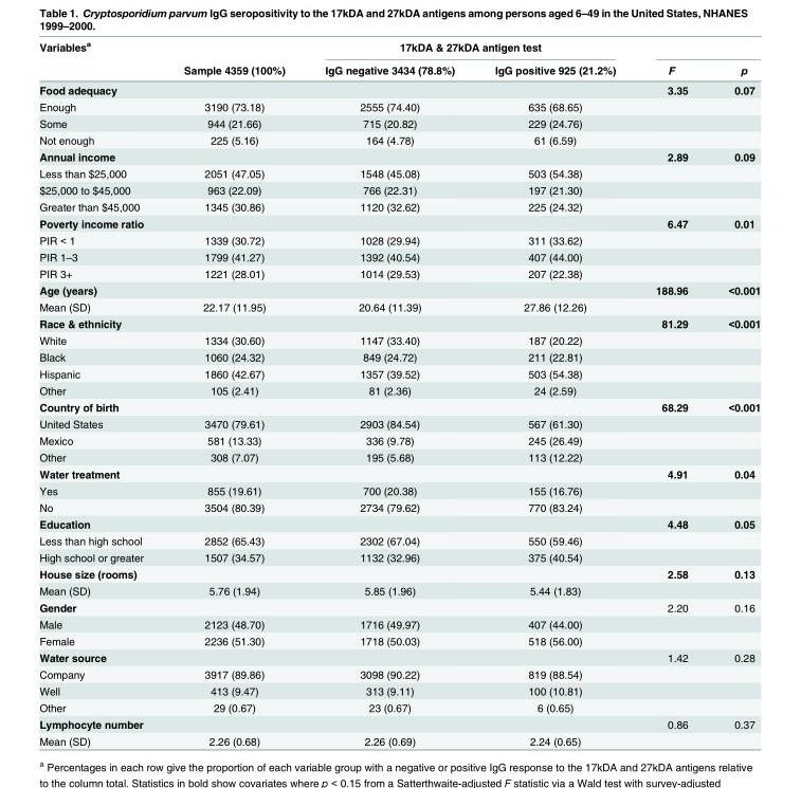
<table><thead><tr><td rowspan="2">Variables<sup>a</sup></td><td rowspan="2">Sample 4359 (100%)</td><td colspan="2">17kDA &amp; 27kDA antigen test</td><td rowspan="2">F</td><td rowspan="2">p</td></tr><tr><td>IgG negative 3434 (78.8%)</td><td>IgG positive 925 (21.2%)</td></tr></thead><tbody><tr><td>Food adequacy</td><td></td><td></td><td></td><td>3.35</td><td>0.07</td></tr><tr><td>Enough</td><td>3190 (73.18)</td><td>2555 (74.40)</td><td>635 (68.65)</td><td></td><td></td></tr><tr><td>Some</td><td>944 (21.66)</td><td>715 (20.82)</td><td>229 (24.76)</td><td></td><td></td></tr><tr><td>Not enough</td><td>225 (5.16)</td><td>164 (4.78)</td><td>61 (6.59)</td><td></td><td></td></tr><tr><td>Annual income</td><td></td><td></td><td></td><td>2.89</td><td>0.09</td></tr><tr><td>Less than $25,000</td><td>2051 (47.05)</td><td>1548 (45.08)</td><td>503 (54.38)</td><td></td><td></td></tr><tr><td>$25,000 to $45,000</td><td>963 (22.09)</td><td>766 (22.31)</td><td>197 (21.30)</td><td></td><td></td></tr><tr><td>Greater than $45,000</td><td>1345 (30.86)</td><td>1120 (32.62)</td><td>225 (24.32)</td><td></td><td></td></tr><tr><td>Poverty income ratio</td><td></td><td></td><td></td><td>6.47</td><td>0.01</td></tr><tr><td>PIR &lt; 1</td><td>1339 (30.72)</td><td>1028 (29.94)</td><td>311 (33.62)</td><td></td><td></td></tr><tr><td>PIR 1–3</td><td>1799 (41.27)</td><td>1392 (40.54)</td><td>407 (44.00)</td><td></td><td></td></tr><tr><td>PIR 3+</td><td>1221 (28.01)</td><td>1014 (29.53)</td><td>207 (22.38)</td><td></td><td></td></tr><tr><td>Age (years)</td><td></td><td></td><td></td><td>188.96</td><td>&lt;0.001</td></tr><tr><td>Mean (SD)</td><td>22.17 (11.95)</td><td>20.64 (11.39)</td><td>27.86 (12.26)</td><td></td><td></td></tr><tr><td>Race &amp; ethnicity</td><td></td><td></td><td></td><td>81.29</td><td>&lt;0.001</td></tr><tr><td>White</td><td>1334 (30.60)</td><td>1147 (33.40)</td><td>187 (20.22)</td><td></td><td></td></tr><tr><td>Black</td><td>1060 (24.32)</td><td>849 (24.72)</td><td>211 (22.81)</td><td></td><td></td></tr><tr><td>Hispanic</td><td>1860 (42.67)</td><td>1357 (39.52)</td><td>503 (54.38)</td><td></td><td></td></tr><tr><td>Other</td><td>105 (2.41)</td><td>81 (2.36)</td><td>24 (2.59)</td><td></td><td></td></tr><tr><td>Country of birth</td><td></td><td></td><td></td><td>68.29</td><td>&lt;0.001</td></tr><tr><td>United States</td><td>3470 (79.61)</td><td>2903 (84.54)</td><td>567 (61.30)</td><td></td><td></td></tr><tr><td>Mexico</td><td>581 (13.33)</td><td>336 (9.78)</td><td>245 (26.49)</td><td></td><td></td></tr><tr><td>Other</td><td>308 (7.07)</td><td>195 (5.68)</td><td>113 (12.22)</td><td></td><td></td></tr><tr><td>Water treatment</td><td></td><td></td><td></td><td>4.91</td><td>0.04</td></tr><tr><td>Yes</td><td>855 (19.61)</td><td>700 (20.38)</td><td>155 (16.76)</td><td></td><td></td></tr><tr><td>No</td><td>3504 (80.39)</td><td>2734 (79.62)</td><td>770 (83.24)</td><td></td><td></td></tr><tr><td>Education</td><td></td><td></td><td></td><td>4.48</td><td>0.05</td></tr><tr><td>Less than high school</td><td>2852 (65.43)</td><td>2302 (67.04)</td><td>550 (59.46)</td><td></td><td></td></tr><tr><td>High school or greater</td><td>1507 (34.57)</td><td>1132 (32.96)</td><td>375 (40.54)</td><td></td><td></td></tr><tr><td>House size (rooms)</td><td></td><td></td><td></td><td>2.58</td><td>0.13</td></tr><tr><td>Mean (SD)</td><td>5.76 (1.94)</td><td>5.85 (1.96)</td><td>5.44 (1.83)</td><td></td><td></td></tr><tr><td>Gender</td><td></td><td></td><td></td><td>2.20</td><td>0.16</td></tr><tr><td>Male</td><td>2123 (48.70)</td><td>1716 (49.97)</td><td>407 (44.00)</td><td></td><td></td></tr><tr><td>Female</td><td>2236 (51.30)</td><td>1718 (50.03)</td><td>518 (56.00)</td><td></td><td></td></tr><tr><td>Water source</td><td></td><td></td><td></td><td>1.42</td><td>0.28</td></tr><tr><td>Company</td><td>3917 (89.86)</td><td>3098 (90.22)</td><td>819 (88.54)</td><td></td><td></td></tr><tr><td>Well</td><td>413 (9.47)</td><td>313 (9.11)</td><td>100 (10.81)</td><td></td><td></td></tr><tr><td>Other</td><td>29 (0.67)</td><td>23 (0.67)</td><td>6 (0.65)</td><td></td><td></td></tr><tr><td>Lymphocyte number</td><td></td><td></td><td></td><td>0.86</td><td>0.37</td></tr><tr><td>Mean (SD)</td><td>2.26 (0.68)</td><td>2.26 (0.69)</td><td>2.24 (0.65)</td><td></td><td></td></tr></tbody></table>